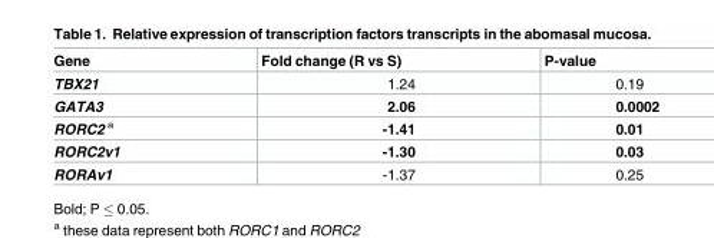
<table><thead><tr><td>Gene</td><td>Fold change (R vs S)</td><td>P-value</td></tr></thead><tbody><tr><td>TBX21</td><td>1.24</td><td>0.19</td></tr><tr><td>GATA3</td><td>2.06</td><td>0.0002</td></tr><tr><td>RORC2 <sup>a</sup></td><td>-1.41</td><td>0.01</td></tr><tr><td>RORC2v1</td><td>-1.30</td><td>0.03</td></tr><tr><td>RORAv1</td><td>-1.37</td><td>0.25</td></tr></tbody></table>